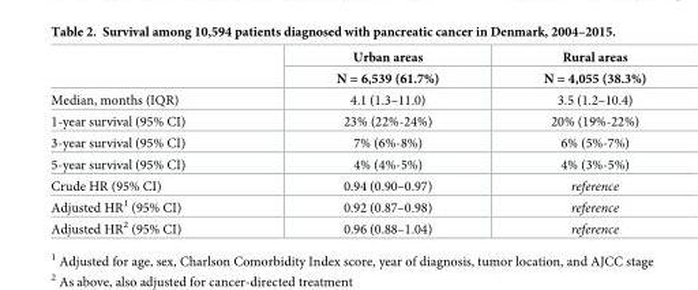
<table><thead><tr><td rowspan="2"></td><td rowspan="2">Urban areas N = 6,539 (61.7%)</td><td rowspan="2">Rural areas N = 4,055 (38.3%)</td></tr><tr></tr></thead><tbody><tr><td>Median, months (IQR)</td><td>4.1 (1.3–11.0)</td><td>3.5 (1.2–10.4)</td></tr><tr><td>1-year survival (95% CI)</td><td>23% (22%-24%)</td><td>20% (19%-22%)</td></tr><tr><td>3-year survival (95% CI)</td><td>7% (6%-8%)</td><td>6% (5%-7%)</td></tr><tr><td>5-year survival (95% CI)</td><td>4% (4%-5%)</td><td>4% (3%-5%)</td></tr><tr><td>Crude HR (95% CI)</td><td>0.94 (0.90–0.97)</td><td>reference</td></tr><tr><td>Adjusted HR<sup>1</sup> (95% CI)</td><td>0.92 (0.87–0.98)</td><td>reference</td></tr><tr><td>Adjusted HR<sup>2</sup> (95% CI)</td><td>0.96 (0.88–1.04)</td><td>reference</td></tr></tbody></table>